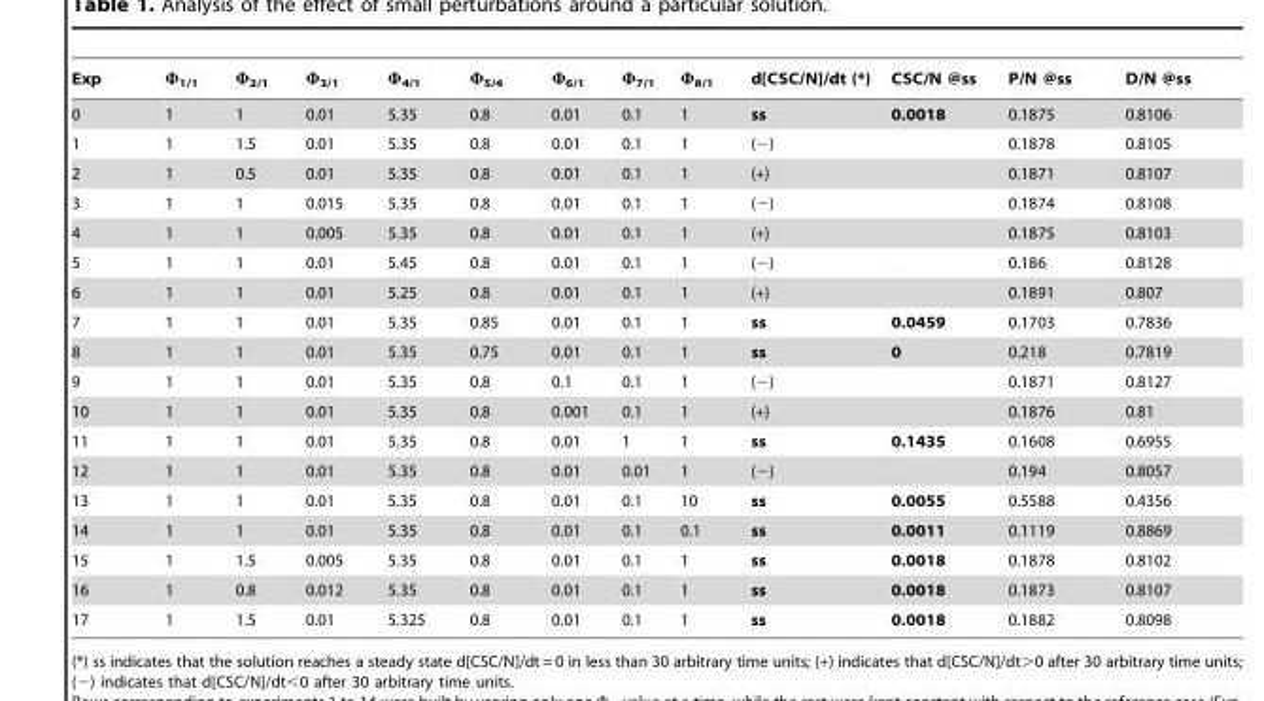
<table><thead><tr><td>Exp</td><td>Φ<sub>1/1</sub></td><td>Φ<sub>2/1</sub></td><td>Φ<sub>3/1</sub></td><td>Φ<sub>4/1</sub></td><td>Φ<sub>5/4</sub></td><td>Φ<sub>6/1</sub></td><td>Φ<sub>7/1</sub></td><td>Φ<sub>8/1</sub></td><td>d[CSC/N]/dt (*)</td><td>CSC/N @ss</td><td>P/N @ss</td><td>D/N @ss</td></tr></thead><tbody><tr><td>0</td><td>1</td><td>1</td><td>0.01</td><td>5.35</td><td>0.8</td><td>0.01</td><td>0.1</td><td>1</td><td>ss</td><td>0.0018</td><td>0.1875</td><td>0.8106</td></tr><tr><td>1</td><td>1</td><td>1.5</td><td>0.01</td><td>5.35</td><td>0.8</td><td>0.01</td><td>0.1</td><td>1</td><td>(−)</td><td></td><td>0.1878</td><td>0.8105</td></tr><tr><td>2</td><td>1</td><td>0.5</td><td>0.01</td><td>5.35</td><td>0.8</td><td>0.01</td><td>0.1</td><td>1</td><td>(+)</td><td></td><td>0.1871</td><td>0.8107</td></tr><tr><td>3</td><td>1</td><td>1</td><td>0.015</td><td>5.35</td><td>0.8</td><td>0.01</td><td>0.1</td><td>1</td><td>(−)</td><td></td><td>0.1874</td><td>0.8108</td></tr><tr><td>4</td><td>1</td><td>1</td><td>0.005</td><td>5.35</td><td>0.8</td><td>0.01</td><td>0.1</td><td>1</td><td>(+)</td><td></td><td>0.1875</td><td>0.8103</td></tr><tr><td>5</td><td>1</td><td>1</td><td>0.01</td><td>5.45</td><td>0.8</td><td>0.01</td><td>0.1</td><td>1</td><td>(−)</td><td></td><td>0.186</td><td>0.8128</td></tr><tr><td>6</td><td>1</td><td>1</td><td>0.01</td><td>5.25</td><td>0.8</td><td>0.01</td><td>0.1</td><td>1</td><td>(+)</td><td></td><td>0.1891</td><td>0.807</td></tr><tr><td>7</td><td>1</td><td>1</td><td>0.01</td><td>5.35</td><td>0.85</td><td>0.01</td><td>0.1</td><td>1</td><td>ss</td><td>0.0459</td><td>0.1703</td><td>0.7836</td></tr><tr><td>8</td><td>1</td><td>1</td><td>0.01</td><td>5.35</td><td>0.75</td><td>0.01</td><td>0.1</td><td>1</td><td>ss</td><td>0</td><td>0.218</td><td>0.7819</td></tr><tr><td>9</td><td>1</td><td>1</td><td>0.01</td><td>5.35</td><td>0.8</td><td>0.1</td><td>0.1</td><td>1</td><td>(−)</td><td></td><td>0.1871</td><td>0.8127</td></tr><tr><td>10</td><td>1</td><td>1</td><td>0.01</td><td>5.35</td><td>0.8</td><td>0.001</td><td>0.1</td><td>1</td><td>(+)</td><td></td><td>0.1876</td><td>0.81</td></tr><tr><td>11</td><td>1</td><td>1</td><td>0.01</td><td>5.35</td><td>0.8</td><td>0.01</td><td>1</td><td>1</td><td>ss</td><td>0.1435</td><td>0.1608</td><td>0.6955</td></tr><tr><td>12</td><td>1</td><td>1</td><td>0.01</td><td>5.35</td><td>0.8</td><td>0.01</td><td>0.01</td><td>1</td><td>(−)</td><td></td><td>0.194</td><td>0.8057</td></tr><tr><td>13</td><td>1</td><td>1</td><td>0.01</td><td>5.35</td><td>0.8</td><td>0.01</td><td>0.1</td><td>10</td><td>ss</td><td>0.0055</td><td>0.5588</td><td>0.4356</td></tr><tr><td>14</td><td>1</td><td>1</td><td>0.01</td><td>5.35</td><td>0.8</td><td>0.01</td><td>0.1</td><td>0.1</td><td>ss</td><td>0.0011</td><td>0.1119</td><td>0.8869</td></tr><tr><td>15</td><td>1</td><td>1.5</td><td>0.005</td><td>5.35</td><td>0.8</td><td>0.01</td><td>0.1</td><td>1</td><td>ss</td><td>0.0018</td><td>0.1878</td><td>0.8102</td></tr><tr><td>16</td><td>1</td><td>0.8</td><td>0.012</td><td>5.35</td><td>0.8</td><td>0.01</td><td>0.1</td><td>1</td><td>ss</td><td>0.0018</td><td>0.1873</td><td>0.8107</td></tr><tr><td>17</td><td>1</td><td>1.5</td><td>0.01</td><td>5.325</td><td>0.8</td><td>0.01</td><td>0.1</td><td>1</td><td>ss</td><td>0.0018</td><td>0.1882</td><td>0.8098</td></tr></tbody></table>